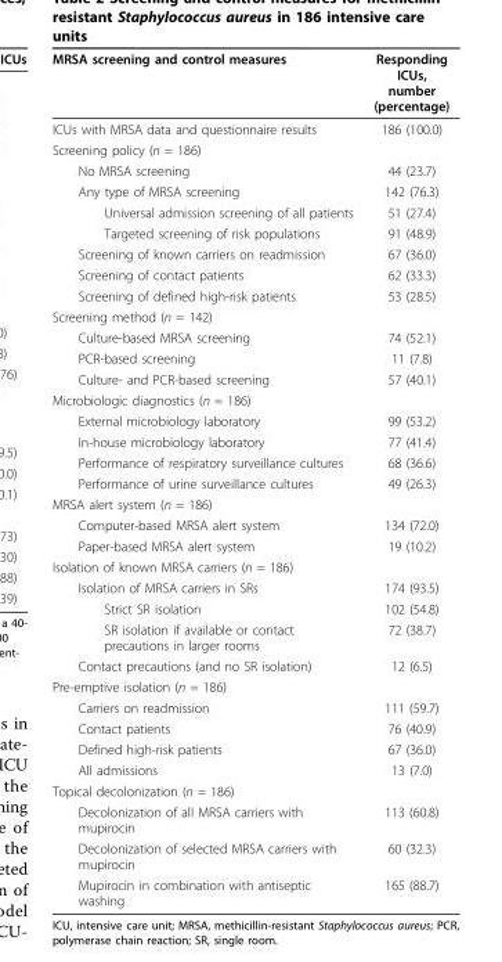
<table><thead><tr><td>MRSA screening and control measures</td><td>Responding ICUs, number (percentage)</td></tr></thead><tbody><tr><td>ICUs with MRSA data and questionnaire results</td><td>186 (100.0)</td></tr><tr><td colspan="2">Screening policy (n = 186)</td></tr><tr><td>No MRSA screening</td><td>44 (23.7)</td></tr><tr><td>Any type of MRSA screening</td><td>142 (76.3)</td></tr><tr><td>Universal admission screening of all patients</td><td>51 (27.4)</td></tr><tr><td>Targeted screening of risk populations</td><td>91 (48.9)</td></tr><tr><td>Screening of known carriers on readmission</td><td>67 (36.0)</td></tr><tr><td>Screening of contact patients</td><td>62 (33.3)</td></tr><tr><td>Screening of defined high-risk patients</td><td>53 (28.5)</td></tr><tr><td colspan="2">Screening method (n = 142)</td></tr><tr><td>Culture-based MRSA screening</td><td>74 (52.1)</td></tr><tr><td>PCR-based screening</td><td>11 (7.8)</td></tr><tr><td>Culture- and PCR-based screening</td><td>57 (40.1)</td></tr><tr><td colspan="2">Microbiologic diagnostics (n = 186)</td></tr><tr><td>External microbiology laboratory</td><td>99 (53.2)</td></tr><tr><td>In-house microbiology laboratory</td><td>77 (41.4)</td></tr><tr><td>Performance of respiratory surveillance cultures</td><td>68 (36.6)</td></tr><tr><td>Performance of urine surveillance cultures</td><td>49 (26.3)</td></tr><tr><td colspan="2">MRSA alert system (n = 186)</td></tr><tr><td>Computer-based MRSA alert system</td><td>134 (72.0)</td></tr><tr><td>Paper-based MRSA alert system</td><td>19 (10.2)</td></tr><tr><td colspan="2">Isolation of known MRSA carriers (n = 186)</td></tr><tr><td>Isolation of MRSA carriers in SRs</td><td>174 (93.5)</td></tr><tr><td>Strict SR isolation</td><td>102 (54.8)</td></tr><tr><td>SR isolation if available or contact precautions in larger rooms</td><td>72 (38.7)</td></tr><tr><td>Contact precautions (and no SR isolation)</td><td>12 (6.5)</td></tr><tr><td colspan="2">Pre-emptive isolation (n = 186)</td></tr><tr><td>Carriers on readmission</td><td>111 (59.7)</td></tr><tr><td>Contact patients</td><td>76 (40.9)</td></tr><tr><td>Defined high-risk patients</td><td>67 (36.0)</td></tr><tr><td>All admissions</td><td>13 (7.0)</td></tr><tr><td colspan="2">Topical decolonization (n = 186)</td></tr><tr><td>Decolonization of all MRSA carriers with mupirocin</td><td>113 (60.8)</td></tr><tr><td>Decolonization of selected MRSA carriers with mupirocin</td><td>60 (32.3)</td></tr><tr><td>Mupirocin in combination with antiseptic washing</td><td>165 (88.7)</td></tr></tbody></table>